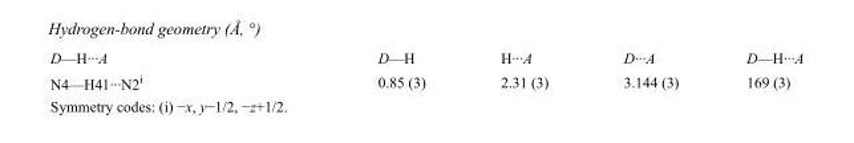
<table><tbody><tr><td>D—H···A</td><td>D—H</td><td>H···A</td><td>D···A</td><td>D—H···A</td></tr><tr><td>N4—H41···N2<sup>i</sup></td><td>0.85 (3)</td><td>2.31 (3)</td><td>3.144 (3)</td><td>169 (3)</td></tr></tbody></table>